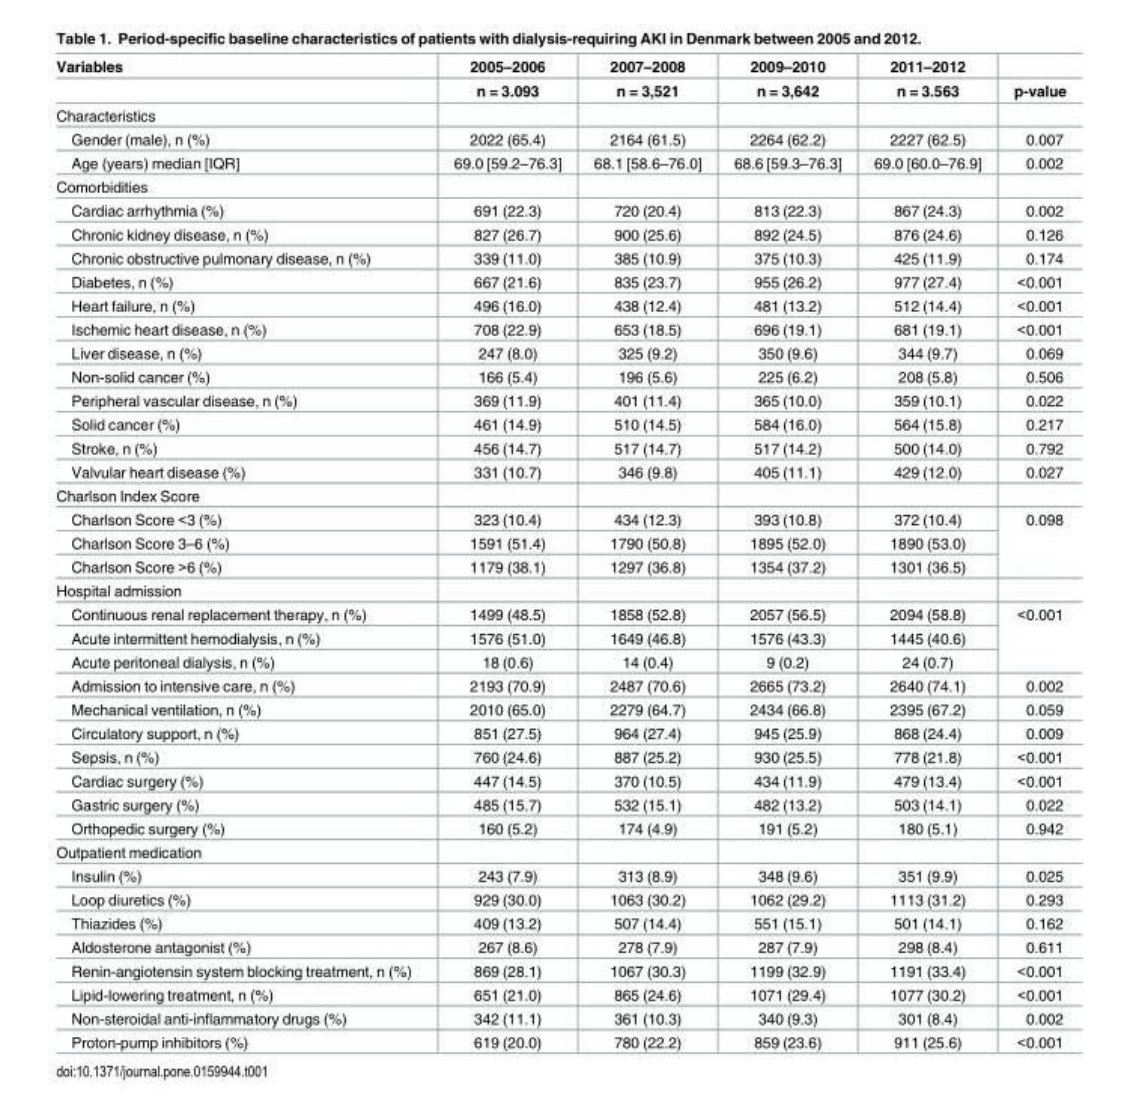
<table><thead><tr><td rowspan="2">Variables</td><td rowspan="2">2005–2006 n = 3.093</td><td rowspan="2">2007–2008 n = 3,521</td><td rowspan="2">2009–2010 n = 3,642</td><td rowspan="2">2011–2012 n = 3.563</td><td rowspan="2">p-value</td></tr><tr></tr></thead><tbody><tr><td colspan="6">Characteristics</td></tr><tr><td>Gender (male), n (%)</td><td>2022 (65.4)</td><td>2164 (61.5)</td><td>2264 (62.2)</td><td>2227 (62.5)</td><td>0.007</td></tr><tr><td>Age (years) median [IQR]</td><td>69.0 [59.2–76.3]</td><td>68.1 [58.6–76.0]</td><td>68.6 [59.3–76.3]</td><td>69.0 [60.0–76.9]</td><td>0.002</td></tr><tr><td colspan="6">Comorbidities</td></tr><tr><td>Cardiac arrhythmia (%)</td><td>691 (22.3)</td><td>720 (20.4)</td><td>813 (22.3)</td><td>867 (24.3)</td><td>0.002</td></tr><tr><td>Chronic kidney disease, n (%)</td><td>827 (26.7)</td><td>900 (25.6)</td><td>892 (24.5)</td><td>876 (24.6)</td><td>0.126</td></tr><tr><td>Chronic obstructive pulmonary disease, n (%)</td><td>339 (11.0)</td><td>385 (10.9)</td><td>375 (10.3)</td><td>425 (11.9)</td><td>0.174</td></tr><tr><td>Diabetes, n (%)</td><td>667 (21.6)</td><td>835 (23.7)</td><td>955 (26.2)</td><td>977 (27.4)</td><td>&lt;0.001</td></tr><tr><td>Heart failure, n (%)</td><td>496 (16.0)</td><td>438 (12.4)</td><td>481 (13.2)</td><td>512 (14.4)</td><td>&lt;0.001</td></tr><tr><td>Ischemic heart disease, n (%)</td><td>708 (22.9)</td><td>653 (18.5)</td><td>696 (19.1)</td><td>681 (19.1)</td><td>&lt;0.001</td></tr><tr><td>Liver disease, n (%)</td><td>247 (8.0)</td><td>325 (9.2)</td><td>350 (9.6)</td><td>344 (9.7)</td><td>0.069</td></tr><tr><td>Non-solid cancer (%)</td><td>166 (5.4)</td><td>196 (5.6)</td><td>225 (6.2)</td><td>208 (5.8)</td><td>0.506</td></tr><tr><td>Peripheral vascular disease, n (%)</td><td>369 (11.9)</td><td>401 (11.4)</td><td>365 (10.0)</td><td>359 (10.1)</td><td>0.022</td></tr><tr><td>Solid cancer (%)</td><td>461 (14.9)</td><td>510 (14.5)</td><td>584 (16.0)</td><td>564 (15.8)</td><td>0.217</td></tr><tr><td>Stroke, n (%)</td><td>456 (14.7)</td><td>517 (14.7)</td><td>517 (14.2)</td><td>500 (14.0)</td><td>0.792</td></tr><tr><td>Valvular heart disease (%)</td><td>331 (10.7)</td><td>346 (9.8)</td><td>405 (11.1)</td><td>429 (12.0)</td><td>0.027</td></tr><tr><td colspan="6">Charlson Index Score</td></tr><tr><td>Charlson Score &lt;3 (%)</td><td>323 (10.4)</td><td>434 (12.3)</td><td>393 (10.8)</td><td>372 (10.4)</td><td rowspan="3">0.098</td></tr><tr><td>Charlson Score 3–6 (%)</td><td>1591 (51.4)</td><td>1790 (50.8)</td><td>1895 (52.0)</td><td>1890 (53.0)</td></tr><tr><td>Charlson Score &gt;6 (%)</td><td>1179 (38.1)</td><td>1297 (36.8)</td><td>1354 (37.2)</td><td>1301 (36.5)</td></tr><tr><td colspan="6">Hospital admission</td></tr><tr><td>Continuous renal replacement therapy, n (%)</td><td>1499 (48.5)</td><td>1858 (52.8)</td><td>2057 (56.5)</td><td>2094 (58.8)</td><td rowspan="3">&lt;0.001</td></tr><tr><td>Acute intermittent hemodialysis, n (%)</td><td>1576 (51.0)</td><td>1649 (46.8)</td><td>1576 (43.3)</td><td>1445 (40.6)</td></tr><tr><td>Acute peritoneal dialysis, n (%)</td><td>18 (0.6)</td><td>14 (0.4)</td><td>9 (0.2)</td><td>24 (0.7)</td></tr><tr><td>Admission to intensive care, n (%)</td><td>2193 (70.9)</td><td>2487 (70.6)</td><td>2665 (73.2)</td><td>2640 (74.1)</td><td>0.002</td></tr><tr><td>Mechanical ventilation, n (%)</td><td>2010 (65.0)</td><td>2279 (64.7)</td><td>2434 (66.8)</td><td>2395 (67.2)</td><td>0.059</td></tr><tr><td>Circulatory support, n (%)</td><td>851 (27.5)</td><td>964 (27.4)</td><td>945 (25.9)</td><td>868 (24.4)</td><td>0.009</td></tr><tr><td>Sepsis, n (%)</td><td>760 (24.6)</td><td>887 (25.2)</td><td>930 (25.5)</td><td>778 (21.8)</td><td>&lt;0.001</td></tr><tr><td>Cardiac surgery (%)</td><td>447 (14.5)</td><td>370 (10.5)</td><td>434 (11.9)</td><td>479 (13.4)</td><td>&lt;0.001</td></tr><tr><td>Gastric surgery (%)</td><td>485 (15.7)</td><td>532 (15.1)</td><td>482 (13.2)</td><td>503 (14.1)</td><td>0.022</td></tr><tr><td>Orthopedic surgery (%)</td><td>160 (5.2)</td><td>174 (4.9)</td><td>191 (5.2)</td><td>180 (5.1)</td><td>0.942</td></tr><tr><td colspan="6">Outpatient medication</td></tr><tr><td>Insulin (%)</td><td>243 (7.9)</td><td>313 (8.9)</td><td>348 (9.6)</td><td>351 (9.9)</td><td>0.025</td></tr><tr><td>Loop diuretics (%)</td><td>929 (30.0)</td><td>1063 (30.2)</td><td>1062 (29.2)</td><td>1113 (31.2)</td><td>0.293</td></tr><tr><td>Thiazides (%)</td><td>409 (13.2)</td><td>507 (14.4)</td><td>551 (15.1)</td><td>501 (14.1)</td><td>0.162</td></tr><tr><td>Aldosterone antagonist (%)</td><td>267 (8.6)</td><td>278 (7.9)</td><td>287 (7.9)</td><td>298 (8.4)</td><td>0.611</td></tr><tr><td>Renin-angiotensin system blocking treatment, n (%)</td><td>869 (28.1)</td><td>1067 (30.3)</td><td>1199 (32.9)</td><td>1191 (33.4)</td><td>&lt;0.001</td></tr><tr><td>Lipid-lowering treatment, n (%)</td><td>651 (21.0)</td><td>865 (24.6)</td><td>1071 (29.4)</td><td>1077 (30.2)</td><td>&lt;0.001</td></tr><tr><td>Non-steroidal anti-inflammatory drugs (%)</td><td>342 (11.1)</td><td>361 (10.3)</td><td>340 (9.3)</td><td>301 (8.4)</td><td>0.002</td></tr><tr><td>Proton-pump inhibitors (%)</td><td>619 (20.0)</td><td>780 (22.2)</td><td>859 (23.6)</td><td>911 (25.6)</td><td>&lt;0.001</td></tr></tbody></table>